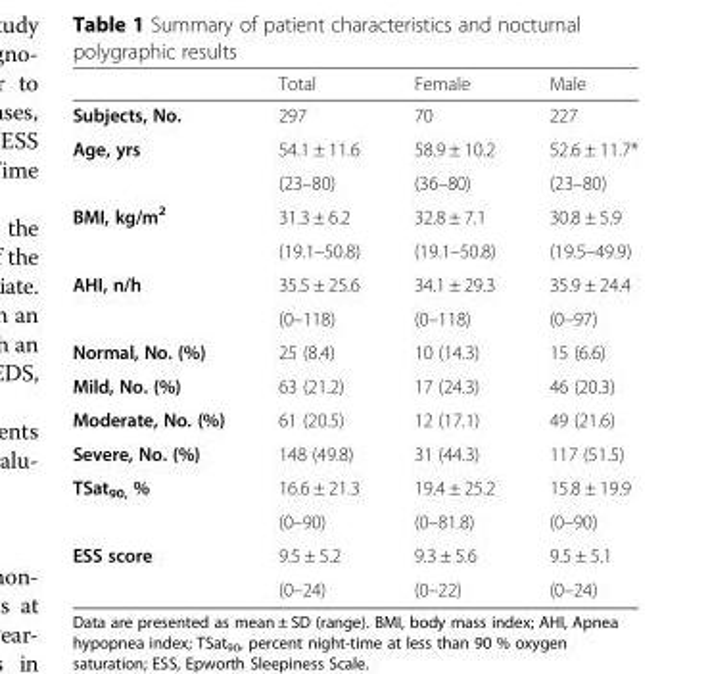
<table><thead><tr><td></td><td>Total</td><td>Female</td><td>Male</td></tr></thead><tbody><tr><td>Subjects, No.</td><td>297</td><td>70</td><td>227</td></tr><tr><td rowspan="2">Age, yrs</td><td>54.1 ± 11.6</td><td>58.9 ± 10.2</td><td>52.6 ± 11.7*</td></tr><tr><td>(23–80)</td><td>(36–80)</td><td>(23–80)</td></tr><tr><td rowspan="2">BMI, kg/m<sup>2</sup></td><td>31.3 ± 6.2</td><td>32.8 ± 7.1</td><td>30.8 ± 5.9</td></tr><tr><td>(19.1–50.8)</td><td>(19.1–50.8)</td><td>(19.5–49.9)</td></tr><tr><td rowspan="2">AHI, n/h</td><td>35.5 ± 25.6</td><td>34.1 ± 29.3</td><td>35.9 ± 24.4</td></tr><tr><td>(0–118)</td><td>(0–118)</td><td>(0–97)</td></tr><tr><td>Normal, No. (%)</td><td>25 (8.4)</td><td>10 (14.3)</td><td>15 (6.6)</td></tr><tr><td>Mild, No. (%)</td><td>63 (21.2)</td><td>17 (24.3)</td><td>46 (20.3)</td></tr><tr><td>Moderate, No. (%)</td><td>61 (20.5)</td><td>12 (17.1)</td><td>49 (21.6)</td></tr><tr><td>Severe, No. (%)</td><td>148 (49.8)</td><td>31 (44.3)</td><td>117 (51.5)</td></tr><tr><td rowspan="2">TSat<sub>90,</sub> %</td><td>16.6 ± 21.3</td><td>19.4 ± 25.2</td><td>15.8 ± 19.9</td></tr><tr><td>(0–90)</td><td>(0–81.8)</td><td>(0–90)</td></tr><tr><td rowspan="2">ESS score</td><td>9.5 ± 5.2</td><td>9.3 ± 5.6</td><td>9.5 ± 5.1</td></tr><tr><td>(0–24)</td><td>(0–22)</td><td>(0–24)</td></tr></tbody></table>